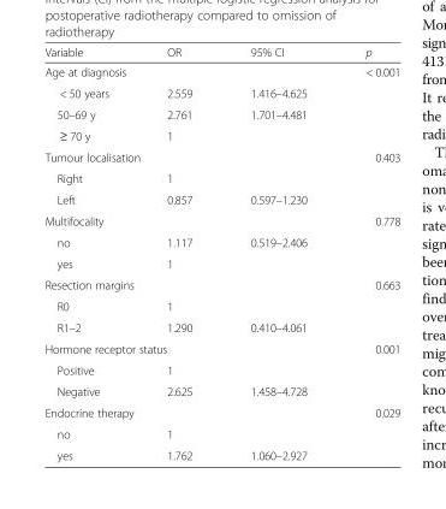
<table><thead><tr><td>Variable</td><td>OR</td><td>95% CI</td><td>p</td></tr></thead><tbody><tr><td colspan="3">Age at diagnosis</td><td>&lt; 0.001</td></tr><tr><td>&lt; 50 years</td><td>2.559</td><td>1.416–4.625</td><td></td></tr><tr><td>50–69 y</td><td>2.761</td><td>1.701–4.481</td><td></td></tr><tr><td>≥ 70 y</td><td>1</td><td></td><td></td></tr><tr><td colspan="3">Tumour localisation</td><td>0.403</td></tr><tr><td>Right</td><td>1</td><td></td><td></td></tr><tr><td>Left</td><td>0.857</td><td>0.597–1.230</td><td></td></tr><tr><td colspan="3">Multifocality</td><td>0.778</td></tr><tr><td>no</td><td>1.117</td><td>0.519–2.406</td><td></td></tr><tr><td>yes</td><td>1</td><td></td><td></td></tr><tr><td colspan="3">Resection margins</td><td>0.663</td></tr><tr><td>R0</td><td>1</td><td></td><td></td></tr><tr><td>R1–2</td><td>1.290</td><td>0.410–4.061</td><td></td></tr><tr><td colspan="3">Hormone receptor status</td><td>0.001</td></tr><tr><td>Positive</td><td>1</td><td></td><td></td></tr><tr><td>Negative</td><td>2.625</td><td>1.458–4.728</td><td></td></tr><tr><td colspan="3">Endocrine therapy</td><td>0.029</td></tr><tr><td>no</td><td>1</td><td></td><td></td></tr><tr><td>yes</td><td>1.762</td><td>1.060–2.927</td><td></td></tr></tbody></table>